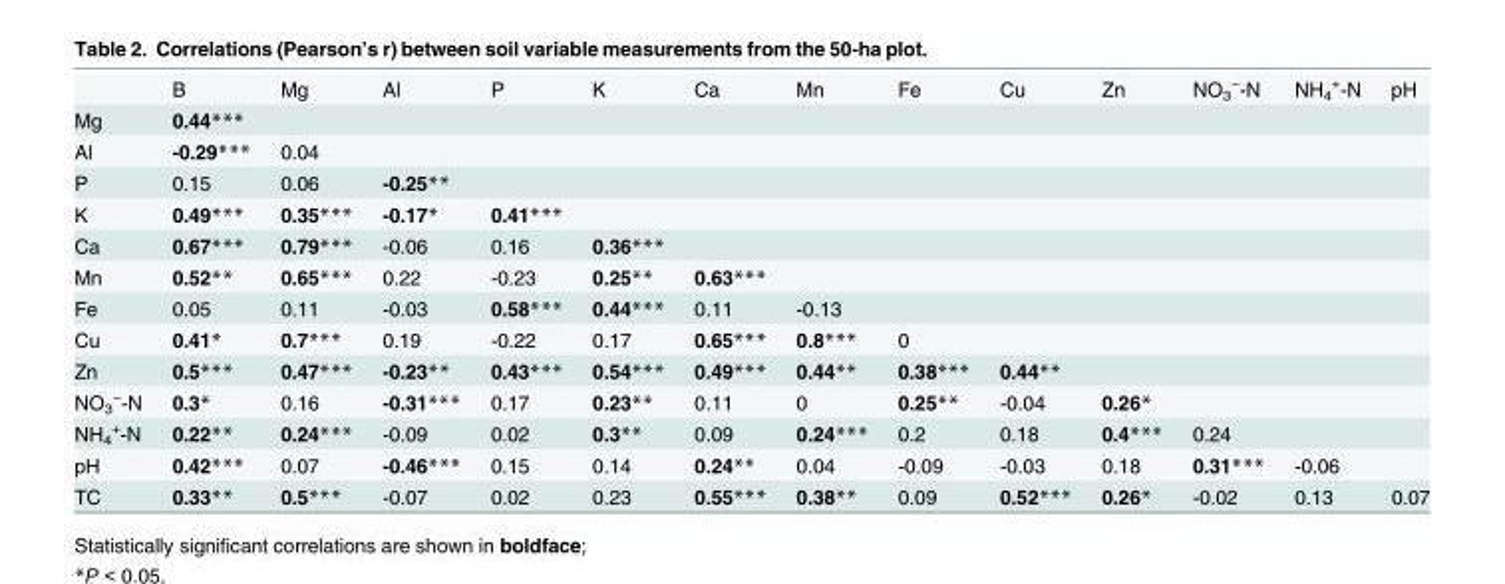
<table><thead><tr><td></td><td>B</td><td>Mg</td><td>Al</td><td>P</td><td>K</td><td>Ca</td><td>Mn</td><td>Fe</td><td>Cu</td><td>Zn</td><td>NO<sub>3</sub> <sup>−</sup>-N</td><td>NH<sub>4</sub> <sup>+</sup>-N</td><td>pH</td></tr></thead><tbody><tr><td>Mg</td><td>0.44***</td><td></td><td></td><td></td><td></td><td></td><td></td><td></td><td></td><td></td><td></td><td></td><td></td></tr><tr><td>Al</td><td>-0.29***</td><td>0.04</td><td></td><td></td><td></td><td></td><td></td><td></td><td></td><td></td><td></td><td></td><td></td></tr><tr><td>P</td><td>0.15</td><td>0.06</td><td>-0.25**</td><td></td><td></td><td></td><td></td><td></td><td></td><td></td><td></td><td></td><td></td></tr><tr><td>K</td><td>0.49***</td><td>0.35***</td><td>-0.17*</td><td>0.41***</td><td></td><td></td><td></td><td></td><td></td><td></td><td></td><td></td><td></td></tr><tr><td>Ca</td><td>0.67***</td><td>0.79***</td><td>-0.06</td><td>0.16</td><td>0.36***</td><td></td><td></td><td></td><td></td><td></td><td></td><td></td><td></td></tr><tr><td>Mn</td><td>0.52**</td><td>0.65***</td><td>0.22</td><td>-0.23</td><td>0.25**</td><td>0.63***</td><td></td><td></td><td></td><td></td><td></td><td></td><td></td></tr><tr><td>Fe</td><td>0.05</td><td>0.11</td><td>-0.03</td><td>0.58***</td><td>0.44***</td><td>0.11</td><td>-0.13</td><td></td><td></td><td></td><td></td><td></td><td></td></tr><tr><td>Cu</td><td>0.41*</td><td>0.7***</td><td>0.19</td><td>-0.22</td><td>0.17</td><td>0.65***</td><td>0.8***</td><td>0</td><td></td><td></td><td></td><td></td><td></td></tr><tr><td>Zn</td><td>0.5***</td><td>0.47***</td><td>-0.23**</td><td>0.43***</td><td>0.54***</td><td>0.49***</td><td>0.44**</td><td>0.38***</td><td>0.44**</td><td></td><td></td><td></td><td></td></tr><tr><td>NO<sub>3</sub> <sup>−</sup>-N</td><td>0.3*</td><td>0.16</td><td>-0.31***</td><td>0.17</td><td>0.23**</td><td>0.11</td><td>0</td><td>0.25**</td><td>-0.04</td><td>0.26*</td><td></td><td></td><td></td></tr><tr><td>NH<sub>4</sub> <sup>+</sup>-N</td><td>0.22**</td><td>0.24***</td><td>-0.09</td><td>0.02</td><td>0.3**</td><td>0.09</td><td>0.24***</td><td>0.2</td><td>0.18</td><td>0.4***</td><td>0.24</td><td></td><td></td></tr><tr><td>pH</td><td>0.42***</td><td>0.07</td><td>-0.46***</td><td>0.15</td><td>0.14</td><td>0.24**</td><td>0.04</td><td>-0.09</td><td>-0.03</td><td>0.18</td><td>0.31***</td><td>-0.06</td><td></td></tr><tr><td>TC</td><td>0.33**</td><td>0.5***</td><td>-0.07</td><td>0.02</td><td>0.23</td><td>0.55***</td><td>0.38**</td><td>0.09</td><td>0.52***</td><td>0.26*</td><td>-0.02</td><td>0.13</td><td>0.07</td></tr></tbody></table>